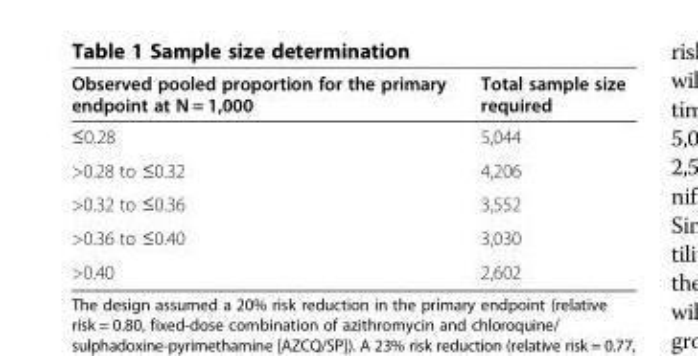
<table><thead><tr><td>Observed pooled proportion for the primary endpoint at N = 1,000</td><td>Total sample size required</td></tr></thead><tbody><tr><td>≤0.28</td><td>5,044</td></tr><tr><td>&gt;0.28 to ≤0.32</td><td>4,206</td></tr><tr><td>&gt;0.32 to ≤0.36</td><td>3,552</td></tr><tr><td>&gt;0.36 to ≤0.40</td><td>3,030</td></tr><tr><td>&gt;0.40</td><td>2,602</td></tr></tbody></table>